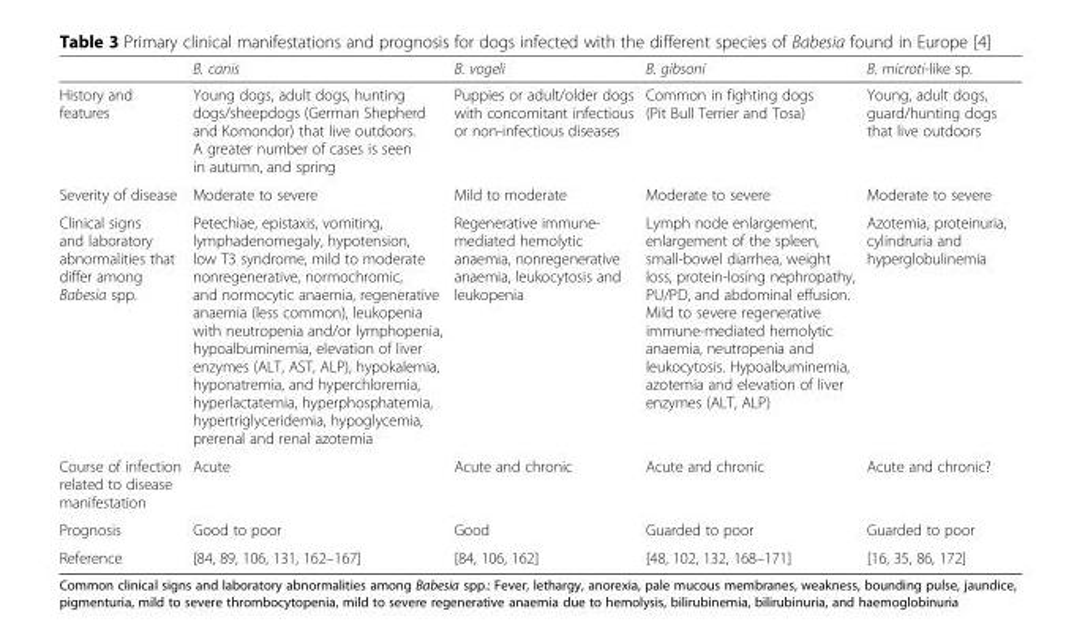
<table><thead><tr><td></td><td>B. canis</td><td>B. vogeli</td><td>B. gibsoni</td><td>B. microti-like sp.</td></tr></thead><tbody><tr><td>History and features</td><td>Young dogs, adult dogs, hunting dogs/sheepdogs (German Shepherd and Komondor) that live outdoors. A greater number of cases is seen in autumn, and spring</td><td>Puppies or adult/older dogs with concomitant infectious or non-infectious diseases</td><td>Common in fighting dogs (Pit Bull Terrier and Tosa)</td><td>Young, adult dogs, guard/hunting dogs that live outdoors</td></tr><tr><td>Severity of disease</td><td>Moderate to severe</td><td>Mild to moderate</td><td>Moderate to severe</td><td>Moderate to severe</td></tr><tr><td>Clinical signs and laboratory abnormalities that differ among Babesia spp.</td><td>Petechiae, epistaxis, vomiting, lymphadenomegaly, hypotension, low T3 syndrome, mild to moderate nonregenerative, normochromic, and normocytic anaemia, regenerative anaemia (less common), leukopenia with neutropenia and/or lymphopenia, hypoalbuminemia, elevation of liver enzymes (ALT, AST, ALP), hypokalemia, hyponatremia, and hyperchloremia, hyperlactatemia, hyperphosphatemia, hypertriglyceridemia, hypoglycemia, prerenal and renal azotemia</td><td>Regenerative immune- mediated hemolytic anaemia, nonregenerative anaemia, leukocytosis and leukopenia</td><td>Lymph node enlargement, enlargement of the spleen, small-bowel diarrhea, weight loss, protein-losing nephropathy, PU/PD, and abdominal effusion. Mild to severe regenerative immune-mediated hemolytic anaemia, neutropenia and leukocytosis. Hypoalbuminemia, azotemia and elevation of liver enzymes (ALT, ALP)</td><td>Azotemia, proteinuria, cylindruria and hyperglobulinemia</td></tr><tr><td>Course of infection related to disease manifestation</td><td>Acute</td><td>Acute and chronic</td><td>Acute and chronic</td><td>Acute and chronic?</td></tr><tr><td>Prognosis</td><td>Good to poor</td><td>Good</td><td>Guarded to poor</td><td>Guarded to poor</td></tr><tr><td>Reference</td><td>[84, 89, 106, 131, 162–167]</td><td>[84, 106, 162]</td><td>[48, 102, 132, 168–171]</td><td>[16, 35, 86, 172]</td></tr></tbody></table>